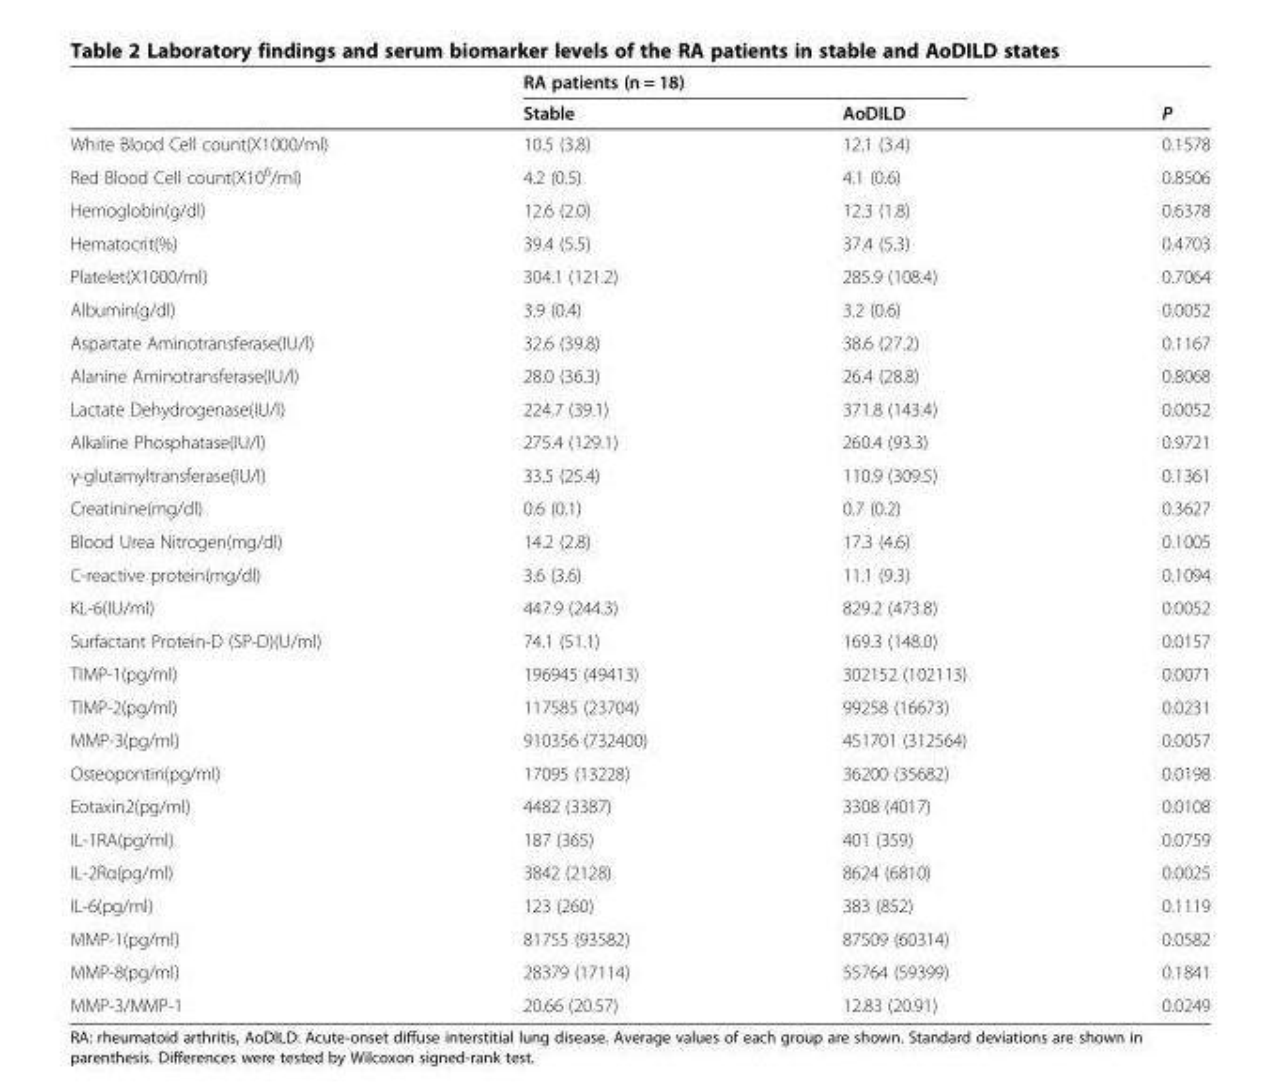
<table><thead><tr><td rowspan="2"></td><td colspan="2">RA patients (n = 18)</td><td rowspan="2">P</td></tr><tr><td>Stable</td><td>AoDILD</td></tr></thead><tbody><tr><td>White Blood Cell count(X1000/ml)</td><td>10.5 (3.8)</td><td>12.1 (3.4)</td><td>0.1578</td></tr><tr><td>Red Blood Cell count(X10<sup>6</sup>/ml)</td><td>4.2 (0.5)</td><td>4.1 (0.6)</td><td>0.8506</td></tr><tr><td>Hemoglobin(g/dl)</td><td>12.6 (2.0)</td><td>12.3 (1.8)</td><td>0.6378</td></tr><tr><td>Hematocrit(%)</td><td>39.4 (5.5)</td><td>37.4 (5.3)</td><td>0.4703</td></tr><tr><td>Platelet(X1000/ml)</td><td>304.1 (121.2)</td><td>285.9 (108.4)</td><td>0.7064</td></tr><tr><td>Albumin(g/dl)</td><td>3.9 (0.4)</td><td>3.2 (0.6)</td><td>0.0052</td></tr><tr><td>Aspartate Aminotransferase(IU/l)</td><td>32.6 (39.8)</td><td>38.6 (27.2)</td><td>0.1167</td></tr><tr><td>Alanine Aminotransferase(IU/l)</td><td>28.0 (36.3)</td><td>26.4 (28.8)</td><td>0.8068</td></tr><tr><td>Lactate Dehydrogenase(IU/l)</td><td>224.7 (39.1)</td><td>371.8 (143.4)</td><td>0.0052</td></tr><tr><td>Alkaline Phosphatase(IU/l)</td><td>275.4 (129.1)</td><td>260.4 (93.3)</td><td>0.9721</td></tr><tr><td>γ-glutamyltransferase(IU/l)</td><td>33.5 (25.4)</td><td>110.9 (309.5)</td><td>0.1361</td></tr><tr><td>Creatinine(mg/dl)</td><td>0.6 (0.1)</td><td>0.7 (0.2)</td><td>0.3627</td></tr><tr><td>Blood Urea Nitrogen(mg/dl)</td><td>14.2 (2.8)</td><td>17.3 (4.6)</td><td>0.1005</td></tr><tr><td>C-reactive protein(mg/dl)</td><td>3.6 (3.6)</td><td>11.1 (9.3)</td><td>0.1094</td></tr><tr><td>KL-6(IU/ml)</td><td>447.9 (244.3)</td><td>829.2 (473.8)</td><td>0.0052</td></tr><tr><td>Surfactant Protein-D (SP-D)(U/ml)</td><td>74.1 (51.1)</td><td>169.3 (148.0)</td><td>0.0157</td></tr><tr><td>TIMP-1(pg/ml)</td><td>196945 (49413)</td><td>302152 (102113)</td><td>0.0071</td></tr><tr><td>TIMP-2(pg/ml)</td><td>117585 (23704)</td><td>99258 (16673)</td><td>0.0231</td></tr><tr><td>MMP-3(pg/ml)</td><td>910356 (732400)</td><td>451701 (312564)</td><td>0.0057</td></tr><tr><td>Osteopontin(pg/ml)</td><td>17095 (13228)</td><td>36200 (35682)</td><td>0.0198</td></tr><tr><td>Eotaxin2(pg/ml)</td><td>4482 (3387)</td><td>3308 (4017)</td><td>0.0108</td></tr><tr><td>IL-1RA(pg/ml)</td><td>187 (365)</td><td>401 (359)</td><td>0.0759</td></tr><tr><td>IL-2Rα(pg/ml)</td><td>3842 (2128)</td><td>8624 (6810)</td><td>0.0025</td></tr><tr><td>IL-6(pg/ml)</td><td>123 (260)</td><td>383 (852)</td><td>0.1119</td></tr><tr><td>MMP-1(pg/ml)</td><td>81755 (93582)</td><td>87509 (60314)</td><td>0.0582</td></tr><tr><td>MMP-8(pg/ml)</td><td>28379 (17114)</td><td>55764 (59399)</td><td>0.1841</td></tr><tr><td>MMP-3/MMP-1</td><td>20.66 (20.57)</td><td>12.83 (20.91)</td><td>0.0249</td></tr></tbody></table>